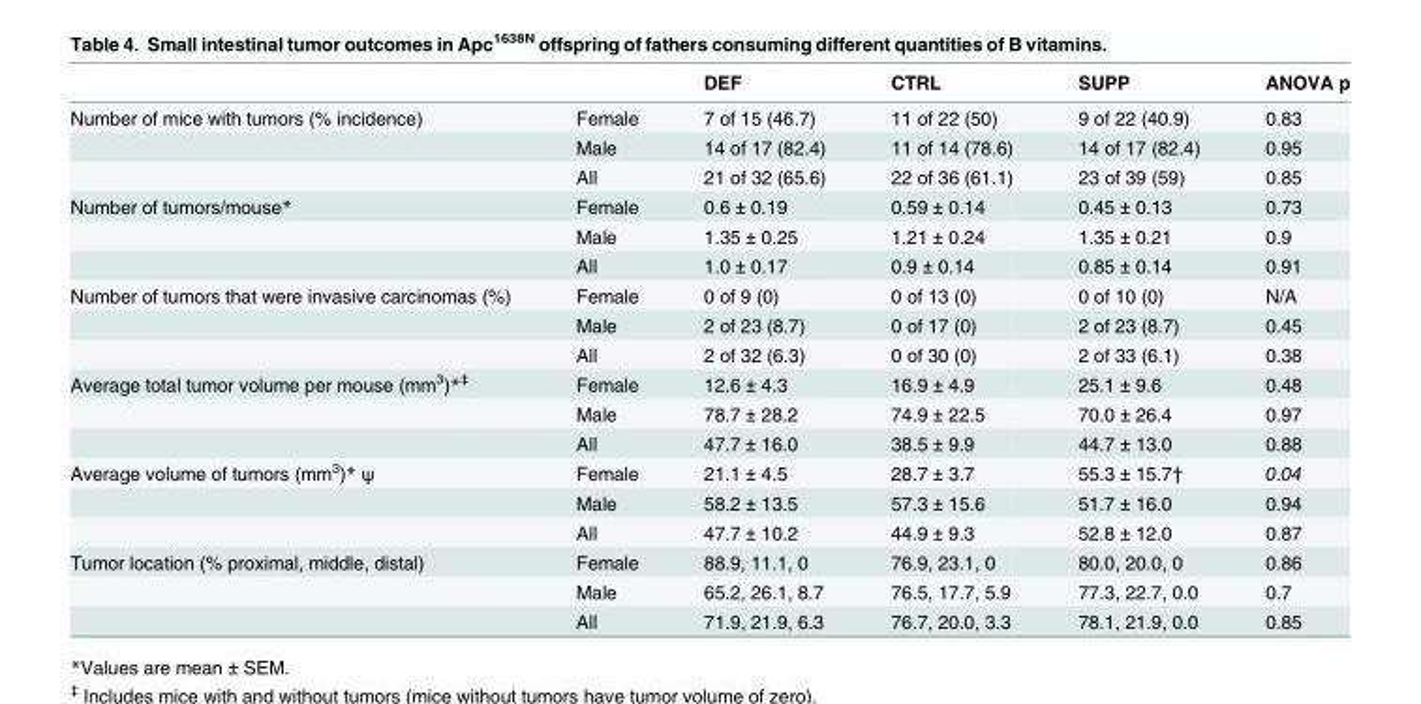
<table><thead><tr><td></td><td></td><td>DEF</td><td>CTRL</td><td>SUPP</td><td>ANOVA p</td></tr></thead><tbody><tr><td rowspan="3">Number of mice with tumors (% incidence)</td><td>Female</td><td>7 of 15 (46.7)</td><td>11 of 22 (50)</td><td>9 of 22 (40.9)</td><td>0.83</td></tr><tr><td>Male</td><td>14 of 17 (82.4)</td><td>11 of 14 (78.6)</td><td>14 of 17 (82.4)</td><td>0.95</td></tr><tr><td>All</td><td>21 of 32 (65.6)</td><td>22 of 36 (61.1)</td><td>23 of 39 (59)</td><td>0.85</td></tr><tr><td rowspan="3">Number of tumors/mouse*</td><td>Female</td><td>0.6 ± 0.19</td><td>0.59 ± 0.14</td><td>0.45 ± 0.13</td><td>0.73</td></tr><tr><td>Male</td><td>1.35 ± 0.25</td><td>1.21 ± 0.24</td><td>1.35 ± 0.21</td><td>0.9</td></tr><tr><td>All</td><td>1.0 ± 0.17</td><td>0.9 ± 0.14</td><td>0.85 ± 0.14</td><td>0.91</td></tr><tr><td rowspan="3">Number of tumors that were invasive carcinomas (%)</td><td>Female</td><td>0 of 9 (0)</td><td>0 of 13 (0)</td><td>0 of 10 (0)</td><td>N/A</td></tr><tr><td>Male</td><td>2 of 23 (8.7)</td><td>0 of 17 (0)</td><td>2 of 23 (8.7)</td><td>0.45</td></tr><tr><td>All</td><td>2 of 32 (6.3)</td><td>0 of 30 (0)</td><td>2 of 33 (6.1)</td><td>0.38</td></tr><tr><td rowspan="3">Average total tumor volume per mouse (mm<sup>3</sup>)*<sup>‡</sup></td><td>Female</td><td>12.6 ± 4.3</td><td>16.9 ± 4.9</td><td>25.1 ± 9.6</td><td>0.48</td></tr><tr><td>Male</td><td>78.7 ± 28.2</td><td>74.9 ± 22.5</td><td>70.0 ± 26.4</td><td>0.97</td></tr><tr><td>All</td><td>47.7 ± 16.0</td><td>38.5 ± 9.9</td><td>44.7 ± 13.0</td><td>0.88</td></tr><tr><td rowspan="3">Average volume of tumors (mm<sup>3</sup>)* ψ</td><td>Female</td><td>21.1 ± 4.5</td><td>28.7 ± 3.7</td><td>55.3 ± 15.7†</td><td>0.04</td></tr><tr><td>Male</td><td>58.2 ± 13.5</td><td>57.3 ± 15.6</td><td>51.7 ± 16.0</td><td>0.94</td></tr><tr><td>All</td><td>47.7 ± 10.2</td><td>44.9 ± 9.3</td><td>52.8 ± 12.0</td><td>0.87</td></tr><tr><td rowspan="3">Tumor location (% proximal, middle, distal)</td><td>Female</td><td>88.9, 11.1, 0</td><td>76.9, 23.1, 0</td><td>80.0, 20.0, 0</td><td>0.86</td></tr><tr><td>Male</td><td>65.2, 26.1, 8.7</td><td>76.5, 17.7, 5.9</td><td>77.3, 22.7, 0.0</td><td>0.7</td></tr><tr><td>All</td><td>71.9, 21.9, 6.3</td><td>76.7, 20.0, 3.3</td><td>78.1, 21.9, 0.0</td><td>0.85</td></tr></tbody></table>